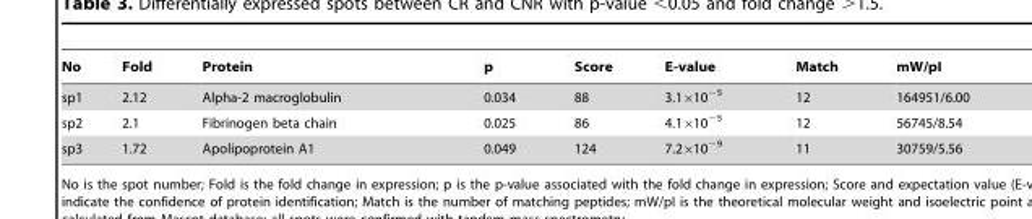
<table><thead><tr><td>No</td><td>Fold</td><td>Protein</td><td>p</td><td>Score</td><td>E-value</td><td>Match</td><td>mW/pI</td></tr></thead><tbody><tr><td>sp1</td><td>2.12</td><td>Alpha-2 macroglobulin</td><td>0.034</td><td>88</td><td>3.1×10<sup>−5</sup></td><td>12</td><td>164951/6.00</td></tr><tr><td>sp2</td><td>2.1</td><td>Fibrinogen beta chain</td><td>0.025</td><td>86</td><td>4.1×10<sup>−5</sup></td><td>12</td><td>56745/8.54</td></tr><tr><td>sp3</td><td>1.72</td><td>Apolipoprotein A1</td><td>0.049</td><td>124</td><td>7.2×10<sup>−9</sup></td><td>11</td><td>30759/5.56</td></tr></tbody></table>